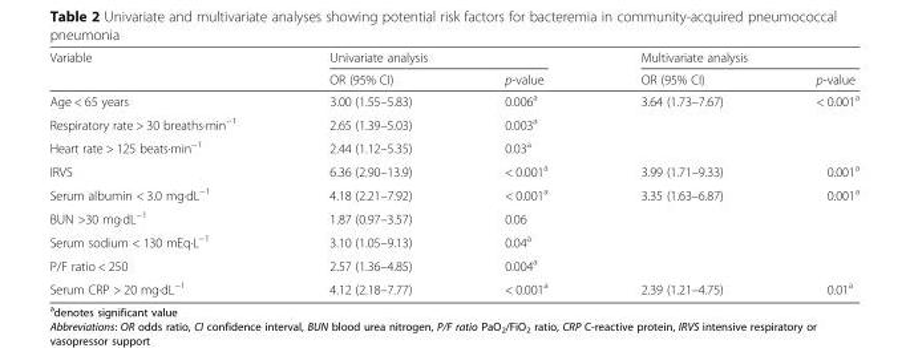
<table><thead><tr><td rowspan="2">Variable</td><td colspan="2">Univariate analysis</td><td colspan="2">Multivariate analysis</td></tr><tr><td>OR (95% CI)</td><td>p-value</td><td>OR (95% CI)</td><td>p-value</td></tr></thead><tbody><tr><td>Age &lt; 65 years</td><td>3.00 (1.55–5.83)</td><td>0.006<sup>a</sup></td><td>3.64 (1.73–7.67)</td><td>&lt; 0.001<sup>a</sup></td></tr><tr><td>Respiratory rate &gt; 30 breaths·min<sup>−1</sup></td><td>2.65 (1.39–5.03)</td><td>0.003<sup>a</sup></td><td></td><td></td></tr><tr><td>Heart rate &gt; 125 beats·min<sup>−1</sup></td><td>2.44 (1.12–5.35)</td><td>0.03<sup>a</sup></td><td></td><td></td></tr><tr><td>IRVS</td><td>6.36 (2.90–13.9)</td><td>&lt; 0.001<sup>a</sup></td><td>3.99 (1.71–9.33)</td><td>0.001<sup>a</sup></td></tr><tr><td>Serum albumin &lt; 3.0 mg·dL<sup>−1</sup></td><td>4.18 (2.21–7.92)</td><td>&lt; 0.001<sup>a</sup></td><td>3.35 (1.63–6.87)</td><td>0.001<sup>a</sup></td></tr><tr><td>BUN &gt;30 mg·dL<sup>−1</sup></td><td>1.87 (0.97–3.57)</td><td>0.06</td><td></td><td></td></tr><tr><td>Serum sodium &lt; 130 mEq·L<sup>−1</sup></td><td>3.10 (1.05–9.13)</td><td>0.04<sup>a</sup></td><td></td><td></td></tr><tr><td>P/F ratio &lt; 250</td><td>2.57 (1.36–4.85)</td><td>0.004<sup>a</sup></td><td></td><td></td></tr><tr><td>Serum CRP &gt; 20 mg·dL<sup>−1</sup></td><td>4.12 (2.18–7.77)</td><td>&lt; 0.001<sup>a</sup></td><td>2.39 (1.21–4.75)</td><td>0.01<sup>a</sup></td></tr></tbody></table>